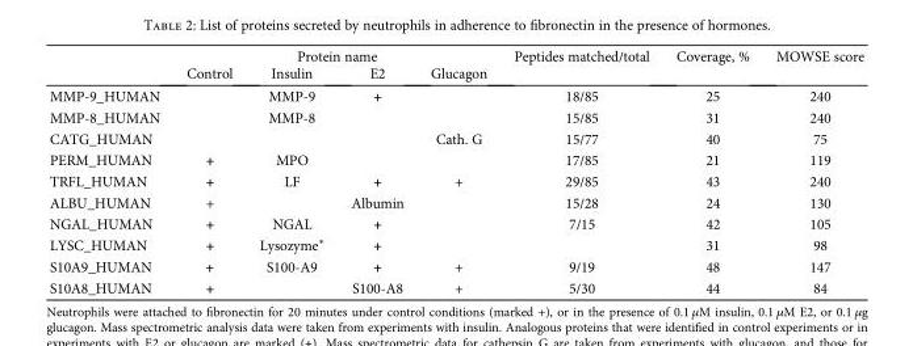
<table><thead><tr><td rowspan="2"></td><td colspan="4">Protein name</td><td rowspan="2">Peptides matched/total</td><td rowspan="2">Coverage, %</td><td rowspan="2">MOWSE score</td></tr><tr><td>Control</td><td>Insulin</td><td>E2</td><td>Glucagon</td></tr></thead><tbody><tr><td>MMP-9_HUMAN</td><td></td><td>MMP-9</td><td>+</td><td></td><td>18/85</td><td>25</td><td>240</td></tr><tr><td>MMP-8_HUMAN</td><td></td><td>MMP-8</td><td></td><td></td><td>15/85</td><td>31</td><td>240</td></tr><tr><td>CATG_HUMAN</td><td></td><td></td><td></td><td>Cath. G</td><td>15/77</td><td>40</td><td>75</td></tr><tr><td>PERM_HUMAN</td><td>+</td><td>MPO</td><td></td><td></td><td>17/85</td><td>21</td><td>119</td></tr><tr><td>TRFL_HUMAN</td><td>+</td><td>LF</td><td>+</td><td>+</td><td>29/85</td><td>43</td><td>240</td></tr><tr><td>ALBU_HUMAN</td><td>+</td><td></td><td>Albumin</td><td></td><td>15/28</td><td>24</td><td>130</td></tr><tr><td>NGAL_HUMAN</td><td>+</td><td>NGAL</td><td>+</td><td></td><td>7/15</td><td>42</td><td>105</td></tr><tr><td>LYSC_HUMAN</td><td>+</td><td>Lysozyme∗</td><td>+</td><td></td><td></td><td>31</td><td>98</td></tr><tr><td>S10A9_HUMAN</td><td>+</td><td>S100-A9</td><td>+</td><td>+</td><td>9/19</td><td>48</td><td>147</td></tr><tr><td>S10A8_HUMAN</td><td>+</td><td></td><td>S100-A8</td><td>+</td><td>5/30</td><td>44</td><td>84</td></tr></tbody></table>